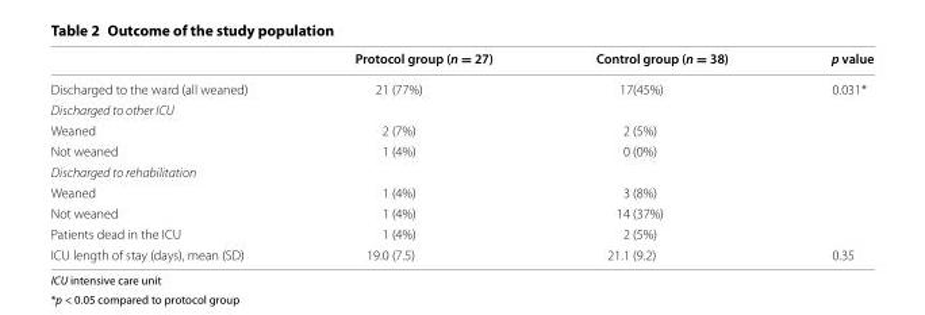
<table><thead><tr><td></td><td>Protocol group (n = 27)</td><td>Control group (n = 38)</td><td>p value</td></tr></thead><tbody><tr><td>Discharged to the ward (all weaned)</td><td>21 (77%)</td><td>17(45%)</td><td>0.031*</td></tr><tr><td colspan="4">Discharged to other ICU</td></tr><tr><td>Weaned</td><td>2 (7%)</td><td>2 (5%)</td><td></td></tr><tr><td>Not weaned</td><td>1 (4%)</td><td>0 (0%)</td><td></td></tr><tr><td colspan="4">Discharged to rehabilitation</td></tr><tr><td>Weaned</td><td>1 (4%)</td><td>3 (8%)</td><td></td></tr><tr><td>Not weaned</td><td>1 (4%)</td><td>14 (37%)</td><td></td></tr><tr><td>Patients dead in the ICU</td><td>1 (4%)</td><td>2 (5%)</td><td></td></tr><tr><td>ICU length of stay (days), mean (SD)</td><td>19.0 (7.5)</td><td>21.1 (9.2)</td><td>0.35</td></tr></tbody></table>